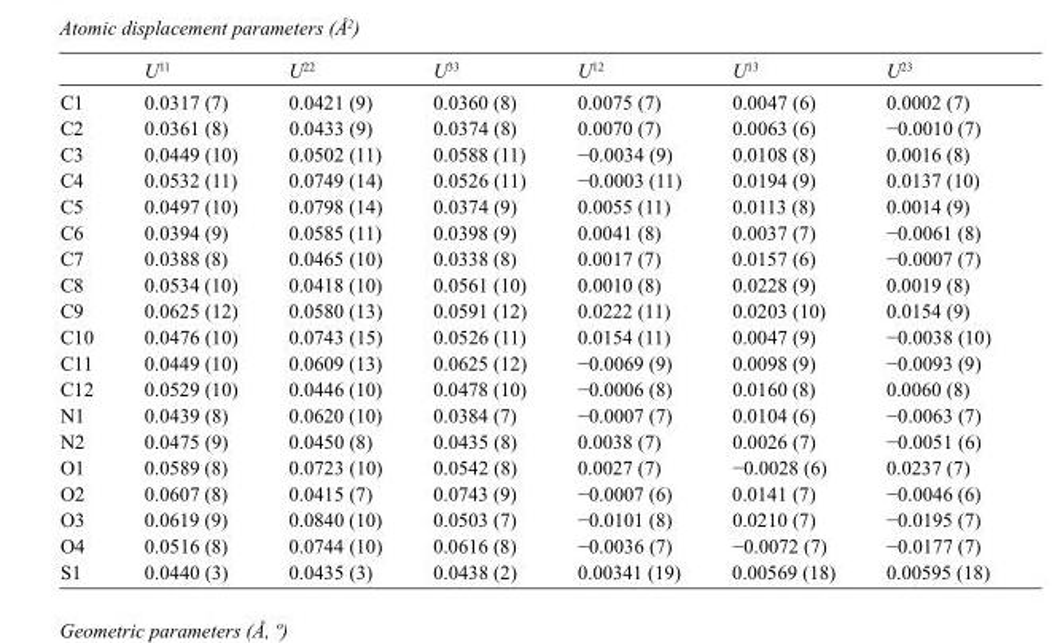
<table><thead><tr><td></td><td>U<sup>11</sup></td><td>U<sup>22</sup></td><td>U<sup>33</sup></td><td>U<sup>12</sup></td><td>U<sup>13</sup></td><td>U<sup>23</sup></td></tr></thead><tbody><tr><td>C1</td><td>0.0317 (7)</td><td>0.0421 (9)</td><td>0.0360 (8)</td><td>0.0075 (7)</td><td>0.0047 (6)</td><td>0.0002 (7)</td></tr><tr><td>C2</td><td>0.0361 (8)</td><td>0.0433 (9)</td><td>0.0374 (8)</td><td>0.0070 (7)</td><td>0.0063 (6)</td><td>−0.0010 (7)</td></tr><tr><td>C3</td><td>0.0449 (10)</td><td>0.0502 (11)</td><td>0.0588 (11)</td><td>−0.0034 (9)</td><td>0.0108 (8)</td><td>0.0016 (8)</td></tr><tr><td>C4</td><td>0.0532 (11)</td><td>0.0749 (14)</td><td>0.0526 (11)</td><td>−0.0003 (11)</td><td>0.0194 (9)</td><td>0.0137 (10)</td></tr><tr><td>C5</td><td>0.0497 (10)</td><td>0.0798 (14)</td><td>0.0374 (9)</td><td>0.0055 (11)</td><td>0.0113 (8)</td><td>0.0014 (9)</td></tr><tr><td>C6</td><td>0.0394 (9)</td><td>0.0585 (11)</td><td>0.0398 (9)</td><td>0.0041 (8)</td><td>0.0037 (7)</td><td>−0.0061 (8)</td></tr><tr><td>C7</td><td>0.0388 (8)</td><td>0.0465 (10)</td><td>0.0338 (8)</td><td>0.0017 (7)</td><td>0.0157 (6)</td><td>−0.0007 (7)</td></tr><tr><td>C8</td><td>0.0534 (10)</td><td>0.0418 (10)</td><td>0.0561 (10)</td><td>0.0010 (8)</td><td>0.0228 (9)</td><td>0.0019 (8)</td></tr><tr><td>C9</td><td>0.0625 (12)</td><td>0.0580 (13)</td><td>0.0591 (12)</td><td>0.0222 (11)</td><td>0.0203 (10)</td><td>0.0154 (9)</td></tr><tr><td>C10</td><td>0.0476 (10)</td><td>0.0743 (15)</td><td>0.0526 (11)</td><td>0.0154 (11)</td><td>0.0047 (9)</td><td>−0.0038 (10)</td></tr><tr><td>C11</td><td>0.0449 (10)</td><td>0.0609 (13)</td><td>0.0625 (12)</td><td>−0.0069 (9)</td><td>0.0098 (9)</td><td>−0.0093 (9)</td></tr><tr><td>C12</td><td>0.0529 (10)</td><td>0.0446 (10)</td><td>0.0478 (10)</td><td>−0.0006 (8)</td><td>0.0160 (8)</td><td>0.0060 (8)</td></tr><tr><td>N1</td><td>0.0439 (8)</td><td>0.0620 (10)</td><td>0.0384 (7)</td><td>−0.0007 (7)</td><td>0.0104 (6)</td><td>−0.0063 (7)</td></tr><tr><td>N2</td><td>0.0475 (9)</td><td>0.0450 (8)</td><td>0.0435 (8)</td><td>0.0038 (7)</td><td>0.0026 (7)</td><td>−0.0051 (6)</td></tr><tr><td>O1</td><td>0.0589 (8)</td><td>0.0723 (10)</td><td>0.0542 (8)</td><td>0.0027 (7)</td><td>−0.0028 (6)</td><td>0.0237 (7)</td></tr><tr><td>O2</td><td>0.0607 (8)</td><td>0.0415 (7)</td><td>0.0743 (9)</td><td>−0.0007 (6)</td><td>0.0141 (7)</td><td>−0.0046 (6)</td></tr><tr><td>O3</td><td>0.0619 (9)</td><td>0.0840 (10)</td><td>0.0503 (7)</td><td>−0.0101 (8)</td><td>0.0210 (7)</td><td>−0.0195 (7)</td></tr><tr><td>O4</td><td>0.0516 (8)</td><td>0.0744 (10)</td><td>0.0616 (8)</td><td>−0.0036 (7)</td><td>−0.0072 (7)</td><td>−0.0177 (7)</td></tr><tr><td>S1</td><td>0.0440 (3)</td><td>0.0435 (3)</td><td>0.0438 (2)</td><td>0.00341 (19)</td><td>0.00569 (18)</td><td>0.00595 (18)</td></tr></tbody></table>